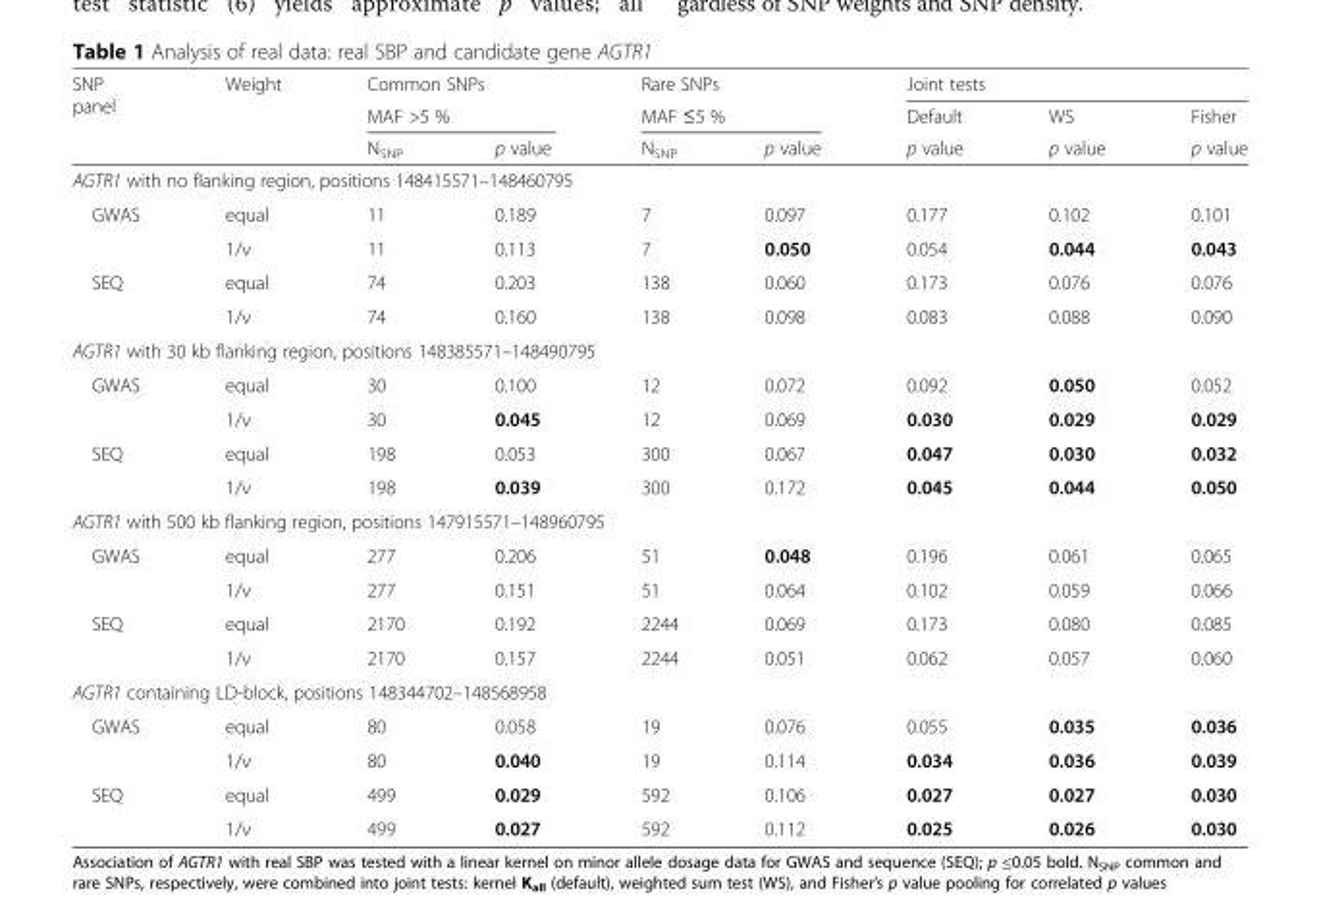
<table><thead><tr><td rowspan="3">SNP panel</td><td rowspan="3">Weight</td><td rowspan="2" colspan="2">Common SNPs MAF &gt;5 %</td><td rowspan="2" colspan="2">Rare SNPs MAF ≤5 %</td><td colspan="3">Joint tests</td></tr><tr><td rowspan="2">Default p value</td><td rowspan="2">WS p value</td><td rowspan="2">Fisher p value</td></tr><tr><td>N<sub>SNP</sub></td><td>p value</td><td>N<sub>SNP</sub></td><td>p value</td></tr></thead><tbody><tr><td colspan="9">AGTR1 with no flanking region, positions 148415571–148460795</td></tr><tr><td rowspan="2">GWAS</td><td>equal</td><td>11</td><td>0.189</td><td>7</td><td>0.097</td><td>0.177</td><td>0.102</td><td>0.101</td></tr><tr><td>1/ν</td><td>11</td><td>0.113</td><td>7</td><td>0.050</td><td>0.054</td><td>0.044</td><td>0.043</td></tr><tr><td rowspan="2">SEQ</td><td>equal</td><td>74</td><td>0.203</td><td>138</td><td>0.060</td><td>0.173</td><td>0.076</td><td>0.076</td></tr><tr><td>1/ν</td><td>74</td><td>0.160</td><td>138</td><td>0.098</td><td>0.083</td><td>0.088</td><td>0.090</td></tr><tr><td colspan="9">AGTR1 with 30 kb flanking region, positions 148385571–148490795</td></tr><tr><td rowspan="2">GWAS</td><td>equal</td><td>30</td><td>0.100</td><td>12</td><td>0.072</td><td>0.092</td><td>0.050</td><td>0.052</td></tr><tr><td>1/ν</td><td>30</td><td>0.045</td><td>12</td><td>0.069</td><td>0.030</td><td>0.029</td><td>0.029</td></tr><tr><td rowspan="2">SEQ</td><td>equal</td><td>198</td><td>0.053</td><td>300</td><td>0.067</td><td>0.047</td><td>0.030</td><td>0.032</td></tr><tr><td>1/ν</td><td>198</td><td>0.039</td><td>300</td><td>0.172</td><td>0.045</td><td>0.044</td><td>0.050</td></tr><tr><td colspan="9">AGTR1 with 500 kb flanking region, positions 147915571–148960795</td></tr><tr><td rowspan="2">GWAS</td><td>equal</td><td>277</td><td>0.206</td><td>51</td><td>0.048</td><td>0.196</td><td>0.061</td><td>0.065</td></tr><tr><td>1/ν</td><td>277</td><td>0.151</td><td>51</td><td>0.064</td><td>0.102</td><td>0.059</td><td>0.066</td></tr><tr><td rowspan="2">SEQ</td><td>equal</td><td>2170</td><td>0.192</td><td>2244</td><td>0.069</td><td>0.173</td><td>0.080</td><td>0.085</td></tr><tr><td>1/ν</td><td>2170</td><td>0.157</td><td>2244</td><td>0.051</td><td>0.062</td><td>0.057</td><td>0.060</td></tr><tr><td colspan="9">AGTR1 containing LD-block, positions 148344702–148568958</td></tr><tr><td rowspan="2">GWAS</td><td>equal</td><td>80</td><td>0.058</td><td>19</td><td>0.076</td><td>0.055</td><td>0.035</td><td>0.036</td></tr><tr><td>1/ν</td><td>80</td><td>0.040</td><td>19</td><td>0.114</td><td>0.034</td><td>0.036</td><td>0.039</td></tr><tr><td rowspan="2">SEQ</td><td>equal</td><td>499</td><td>0.029</td><td>592</td><td>0.106</td><td>0.027</td><td>0.027</td><td>0.030</td></tr><tr><td>1/ν</td><td>499</td><td>0.027</td><td>592</td><td>0.112</td><td>0.025</td><td>0.026</td><td>0.030</td></tr></tbody></table>